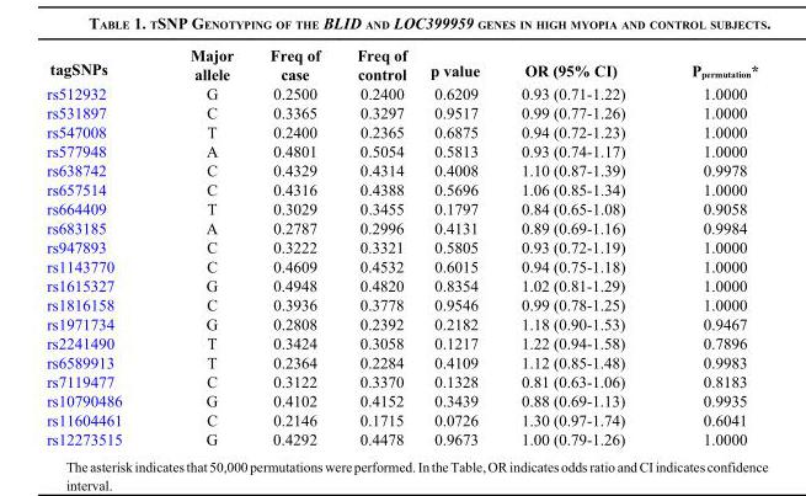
<table><thead><tr><td>tagSNPs</td><td>Major allele</td><td>Freq of case</td><td>Freq of control</td><td>p value</td><td>OR (95% CI)</td><td>P<sub>permutation</sub>*</td></tr></thead><tbody><tr><td>rs512932</td><td>G</td><td>0.2500</td><td>0.2400</td><td>0.6209</td><td>0.93 (0.71-1.22)</td><td>1.0000</td></tr><tr><td>rs531897</td><td>C</td><td>0.3365</td><td>0.3297</td><td>0.9517</td><td>0.99 (0.77-1.26)</td><td>1.0000</td></tr><tr><td>rs547008</td><td>T</td><td>0.2400</td><td>0.2365</td><td>0.6875</td><td>0.94 (0.72-1.23)</td><td>1.0000</td></tr><tr><td>rs577948</td><td>A</td><td>0.4801</td><td>0.5054</td><td>0.5813</td><td>0.93 (0.74-1.17)</td><td>1.0000</td></tr><tr><td>rs638742</td><td>C</td><td>0.4329</td><td>0.4314</td><td>0.4008</td><td>1.10 (0.87-1.39)</td><td>0.9978</td></tr><tr><td>rs657514</td><td>C</td><td>0.4316</td><td>0.4388</td><td>0.5696</td><td>1.06 (0.85-1.34)</td><td>1.0000</td></tr><tr><td>rs664409</td><td>T</td><td>0.3029</td><td>0.3455</td><td>0.1797</td><td>0.84 (0.65-1.08)</td><td>0.9058</td></tr><tr><td>rs683185</td><td>A</td><td>0.2787</td><td>0.2996</td><td>0.4131</td><td>0.89 (0.69-1.16)</td><td>0.9984</td></tr><tr><td>rs947893</td><td>C</td><td>0.3222</td><td>0.3321</td><td>0.5805</td><td>0.93 (0.72-1.19)</td><td>1.0000</td></tr><tr><td>rs1143770</td><td>C</td><td>0.4609</td><td>0.4532</td><td>0.6015</td><td>0.94 (0.75-1.18)</td><td>1.0000</td></tr><tr><td>rs1615327</td><td>G</td><td>0.4948</td><td>0.4820</td><td>0.8354</td><td>1.02 (0.81-1.29)</td><td>1.0000</td></tr><tr><td>rs1816158</td><td>C</td><td>0.3936</td><td>0.3778</td><td>0.9546</td><td>0.99 (0.78-1.25)</td><td>1.0000</td></tr><tr><td>rs1971734</td><td>G</td><td>0.2808</td><td>0.2392</td><td>0.2182</td><td>1.18 (0.90-1.53)</td><td>0.9467</td></tr><tr><td>rs2241490</td><td>T</td><td>0.3424</td><td>0.3058</td><td>0.1217</td><td>1.22 (0.94-1.58)</td><td>0.7896</td></tr><tr><td>rs6589913</td><td>T</td><td>0.2364</td><td>0.2284</td><td>0.4109</td><td>1.12 (0.85-1.48)</td><td>0.9983</td></tr><tr><td>rs7119477</td><td>C</td><td>0.3122</td><td>0.3370</td><td>0.1328</td><td>0.81 (0.63-1.06)</td><td>0.8183</td></tr><tr><td>rs10790486</td><td>G</td><td>0.4102</td><td>0.4152</td><td>0.3439</td><td>0.88 (0.69-1.13)</td><td>0.9935</td></tr><tr><td>rs11604461</td><td>C</td><td>0.2146</td><td>0.1715</td><td>0.0726</td><td>1.30 (0.97-1.74)</td><td>0.6041</td></tr><tr><td>rs12273515</td><td>G</td><td>0.4292</td><td>0.4478</td><td>0.9673</td><td>1.00 (0.79-1.26)</td><td>1.0000</td></tr></tbody></table>